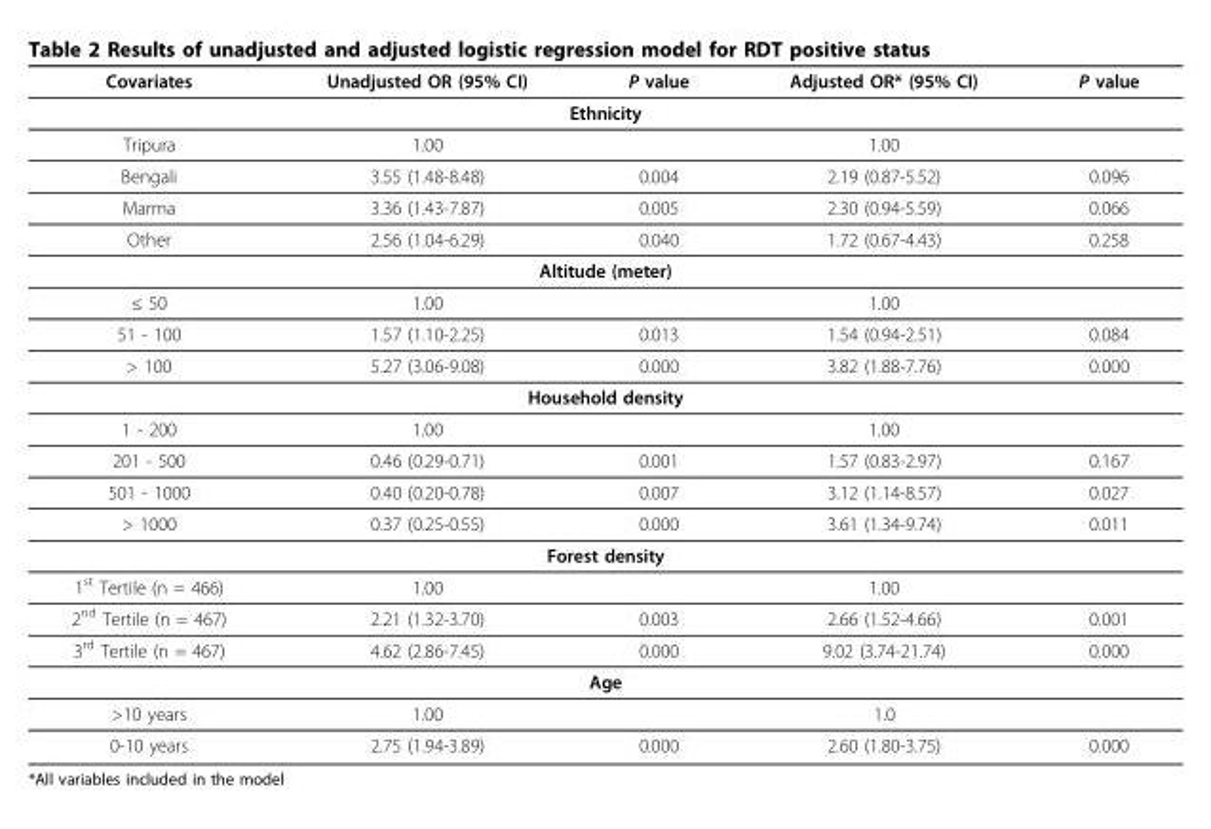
<table><thead><tr><td>Covariates</td><td>Unadjusted OR (95% CI)</td><td>P value</td><td>Adjusted OR* (95% CI)</td><td>P value</td></tr></thead><tbody><tr><td colspan="5">Ethnicity</td></tr><tr><td>Tripura</td><td>1.00</td><td></td><td>1.00</td><td></td></tr><tr><td>Bengali</td><td>3.55 (1.48-8.48)</td><td>0.004</td><td>2.19 (0.87-5.52)</td><td>0.096</td></tr><tr><td>Marma</td><td>3.36 (1.43-7.87)</td><td>0.005</td><td>2.30 (0.94-5.59)</td><td>0.066</td></tr><tr><td>Other</td><td>2.56 (1.04-6.29)</td><td>0.040</td><td>1.72 (0.67-4.43)</td><td>0.258</td></tr><tr><td colspan="5">Altitude (meter)</td></tr><tr><td>≤ 50</td><td>1.00</td><td></td><td>1.00</td><td></td></tr><tr><td>51 - 100</td><td>1.57 (1.10-2.25)</td><td>0.013</td><td>1.54 (0.94-2.51)</td><td>0.084</td></tr><tr><td>&gt; 100</td><td>5.27 (3.06-9.08)</td><td>0.000</td><td>3.82 (1.88-7.76)</td><td>0.000</td></tr><tr><td colspan="5">Household density</td></tr><tr><td>1 - 200</td><td>1.00</td><td></td><td>1.00</td><td></td></tr><tr><td>201 - 500</td><td>0.46 (0.29-0.71)</td><td>0.001</td><td>1.57 (0.83-2.97)</td><td>0.167</td></tr><tr><td>501 - 1000</td><td>0.40 (0.20-0.78)</td><td>0.007</td><td>3.12 (1.14-8.57)</td><td>0.027</td></tr><tr><td>&gt; 1000</td><td>0.37 (0.25-0.55)</td><td>0.000</td><td>3.61 (1.34-9.74)</td><td>0.011</td></tr><tr><td colspan="5">Forest density</td></tr><tr><td>1<sup>st</sup> Tertile (n = 466)</td><td>1.00</td><td></td><td>1.00</td><td></td></tr><tr><td>2<sup>nd</sup> Tertile (n = 467)</td><td>2.21 (1.32-3.70)</td><td>0.003</td><td>2.66 (1.52-4.66)</td><td>0.001</td></tr><tr><td>3<sup>rd</sup> Tertile (n = 467)</td><td>4.62 (2.86-7.45)</td><td>0.000</td><td>9.02 (3.74-21.74)</td><td>0.000</td></tr><tr><td colspan="5">Age</td></tr><tr><td>&gt;10 years</td><td>1.00</td><td></td><td>1.0</td><td></td></tr><tr><td>0-10 years</td><td>2.75 (1.94-3.89)</td><td>0.000</td><td>2.60 (1.80-3.75)</td><td>0.000</td></tr></tbody></table>